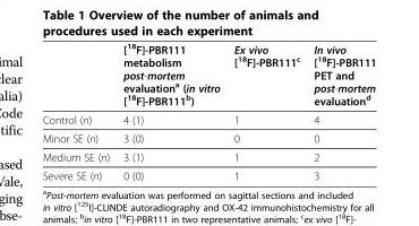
<table><thead><tr><td></td><td>[18F]-PBR111 metabolism post-mortem evaluationa (in vitro [18F]-PBR111b)</td><td>Ex vivo [<sup>18</sup>F]-PBR111<sup>c</sup></td><td>In vivo [<sup>18</sup>F]-PBR111 PET and post-mortem evaluation<sup>d</sup></td></tr></thead><tbody><tr><td>Control (n)</td><td>4 (1)</td><td>1</td><td>4</td></tr><tr><td>Minor SE (n)</td><td>3 (0)</td><td>0</td><td>0</td></tr><tr><td>Medium SE (n)</td><td>3 (1)</td><td>1</td><td>2</td></tr><tr><td>Severe SE (n)</td><td>0 (0)</td><td>1</td><td>3</td></tr></tbody></table>